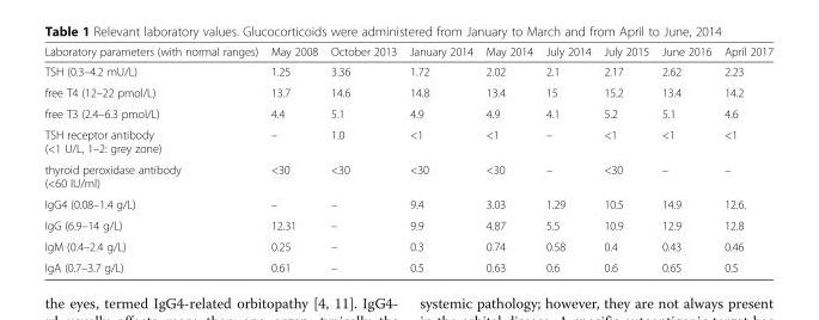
<table><thead><tr><td>Laboratory parameters (with normal ranges)</td><td>May 2008</td><td>October 2013</td><td>January 2014</td><td>May 2014</td><td>July 2014</td><td>July 2015</td><td>June 2016</td><td>April 2017</td></tr></thead><tbody><tr><td>TSH (0.3–4.2 mU/L)</td><td>1.25</td><td>3.36</td><td>1.72</td><td>2.02</td><td>2.1</td><td>2.17</td><td>2.62</td><td>2.23</td></tr><tr><td>free T4 (12–22 pmol/L)</td><td>13.7</td><td>14.6</td><td>14.8</td><td>13.4</td><td>15</td><td>15.2</td><td>13.4</td><td>14.2</td></tr><tr><td>free T3 (2.4–6.3 pmol/L)</td><td>4.4</td><td>5.1</td><td>4.9</td><td>4.9</td><td>4.1</td><td>5.2</td><td>5.1</td><td>4.6</td></tr><tr><td>TSH receptor antibody (&lt;1 U/L, 1–2: grey zone)</td><td>–</td><td>1.0</td><td>&lt;1</td><td>&lt;1</td><td>–</td><td>&lt;1</td><td>&lt;1</td><td>&lt;1</td></tr><tr><td>thyroid peroxidase antibody (&lt;60 IU/ml)</td><td>&lt;30</td><td>&lt;30</td><td>&lt;30</td><td>&lt;30</td><td>–</td><td>&lt;30</td><td>–</td><td>–</td></tr><tr><td>IgG4 (0.08–1.4 g/L)</td><td>–</td><td>–</td><td>9.4</td><td>3.03</td><td>1.29</td><td>10.5</td><td>14.9</td><td>12.6.</td></tr><tr><td>IgG (6.9–14 g/L)</td><td>12.31</td><td>–</td><td>9.9</td><td>4.87</td><td>5.5</td><td>10.9</td><td>12.9</td><td>12.8</td></tr><tr><td>IgM (0.4–2.4 g/L)</td><td>0.25</td><td>–</td><td>0.3</td><td>0.74</td><td>0.58</td><td>0.4</td><td>0.43</td><td>0.46</td></tr><tr><td>IgA (0.7–3.7 g/L)</td><td>0.61</td><td>–</td><td>0.5</td><td>0.63</td><td>0.6</td><td>0.6</td><td>0.65</td><td>0.5</td></tr></tbody></table>